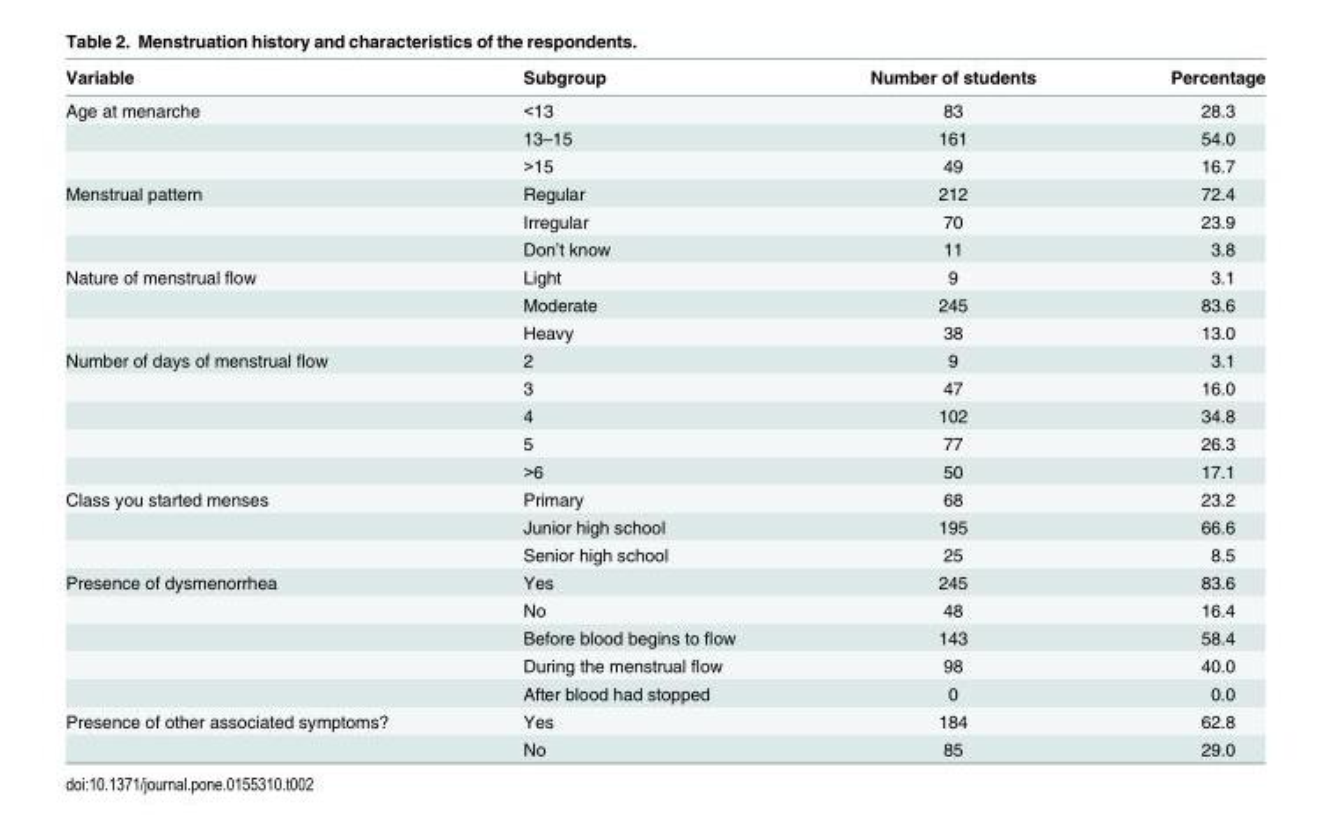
<table><thead><tr><td>Variable</td><td>Subgroup</td><td>Number of students</td><td>Percentage</td></tr></thead><tbody><tr><td rowspan="3">Age at menarche</td><td>&lt;13</td><td>83</td><td>28.3</td></tr><tr><td>13–15</td><td>161</td><td>54.0</td></tr><tr><td>&gt;15</td><td>49</td><td>16.7</td></tr><tr><td rowspan="3">Menstrual pattern</td><td>Regular</td><td>212</td><td>72.4</td></tr><tr><td>Irregular</td><td>70</td><td>23.9</td></tr><tr><td>Don’t know</td><td>11</td><td>3.8</td></tr><tr><td rowspan="3">Nature of menstrual flow</td><td>Light</td><td>9</td><td>3.1</td></tr><tr><td>Moderate</td><td>245</td><td>83.6</td></tr><tr><td>Heavy</td><td>38</td><td>13.0</td></tr><tr><td rowspan="5">Number of days of menstrual flow</td><td>2</td><td>9</td><td>3.1</td></tr><tr><td>3</td><td>47</td><td>16.0</td></tr><tr><td>4</td><td>102</td><td>34.8</td></tr><tr><td>5</td><td>77</td><td>26.3</td></tr><tr><td>&gt;6</td><td>50</td><td>17.1</td></tr><tr><td rowspan="3">Class you started menses</td><td>Primary</td><td>68</td><td>23.2</td></tr><tr><td>Junior high school</td><td>195</td><td>66.6</td></tr><tr><td>Senior high school</td><td>25</td><td>8.5</td></tr><tr><td rowspan="5">Presence of dysmenorrhea</td><td>Yes</td><td>245</td><td>83.6</td></tr><tr><td>No</td><td>48</td><td>16.4</td></tr><tr><td>Before blood begins to flow</td><td>143</td><td>58.4</td></tr><tr><td>During the menstrual flow</td><td>98</td><td>40.0</td></tr><tr><td>After blood had stopped</td><td>0</td><td>0.0</td></tr><tr><td rowspan="2">Presence of other associated symptoms?</td><td>Yes</td><td>184</td><td>62.8</td></tr><tr><td>No</td><td>85</td><td>29.0</td></tr></tbody></table>